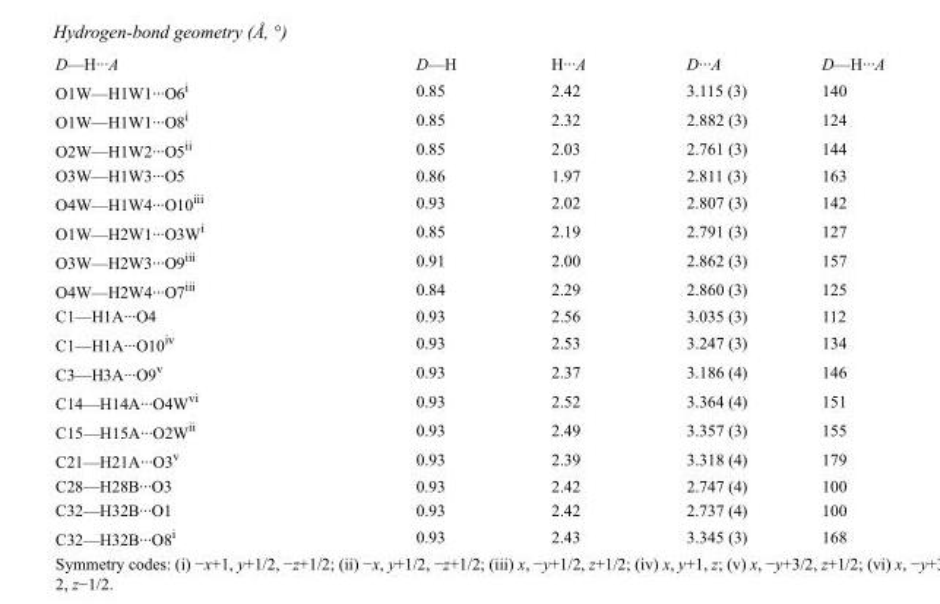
<table><tbody><tr><td>D—H···A</td><td>D—H</td><td>H···A</td><td>D···A</td><td>D—H···A</td></tr><tr><td>O1W—H1W1···O6<sup>i</sup></td><td>0.85</td><td>2.42</td><td>3.115 (3)</td><td>140</td></tr><tr><td>O1W—H1W1···O8<sup>i</sup></td><td>0.85</td><td>2.32</td><td>2.882 (3)</td><td>124</td></tr><tr><td>O2W—H1W2···O5<sup>ii</sup></td><td>0.85</td><td>2.03</td><td>2.761 (3)</td><td>144</td></tr><tr><td>O3W—H1W3···O5</td><td>0.86</td><td>1.97</td><td>2.811 (3)</td><td>163</td></tr><tr><td>O4W—H1W4···O10<sup>iii</sup></td><td>0.93</td><td>2.02</td><td>2.807 (3)</td><td>142</td></tr><tr><td>O1W—H2W1···O3W<sup>i</sup></td><td>0.85</td><td>2.19</td><td>2.791 (3)</td><td>127</td></tr><tr><td>O3W—H2W3···O9<sup>iii</sup></td><td>0.91</td><td>2.00</td><td>2.862 (3)</td><td>157</td></tr><tr><td>O4W—H2W4···O7<sup>iii</sup></td><td>0.84</td><td>2.29</td><td>2.860 (3)</td><td>125</td></tr><tr><td>C1—H1A···O4</td><td>0.93</td><td>2.56</td><td>3.035 (3)</td><td>112</td></tr><tr><td>C1—H1A···O10<sup>iv</sup></td><td>0.93</td><td>2.53</td><td>3.247 (3)</td><td>134</td></tr><tr><td>C3—H3A···O9<sup>v</sup></td><td>0.93</td><td>2.37</td><td>3.186 (4)</td><td>146</td></tr><tr><td>C14—H14A···O4W<sup>vi</sup></td><td>0.93</td><td>2.52</td><td>3.364 (4)</td><td>151</td></tr><tr><td>C15—H15A···O2W<sup>ii</sup></td><td>0.93</td><td>2.49</td><td>3.357 (3)</td><td>155</td></tr><tr><td>C21—H21A···O3<sup>v</sup></td><td>0.93</td><td>2.39</td><td>3.318 (4)</td><td>179</td></tr><tr><td>C28—H28B···O3</td><td>0.93</td><td>2.42</td><td>2.747 (4)</td><td>100</td></tr><tr><td>C32—H32B···O1</td><td>0.93</td><td>2.42</td><td>2.737 (4)</td><td>100</td></tr><tr><td>C32—H32B···O8<sup>i</sup></td><td>0.93</td><td>2.43</td><td>3.345 (3)</td><td>168</td></tr></tbody></table>